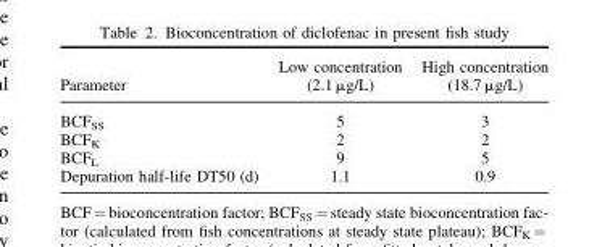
<table><thead><tr><td>Parameter</td><td>Low concentration (2.1 µg/L)</td><td>High concentration (18.7 µg/L)</td></tr></thead><tbody><tr><td>BCF<sub>SS</sub></td><td>5</td><td>3</td></tr><tr><td>BCF<sub>K</sub></td><td>2</td><td>2</td></tr><tr><td>BCF<sub>L</sub></td><td>9</td><td>5</td></tr><tr><td>Depuration half-life DT50 (d)</td><td>1.1</td><td>0.9</td></tr></tbody></table>